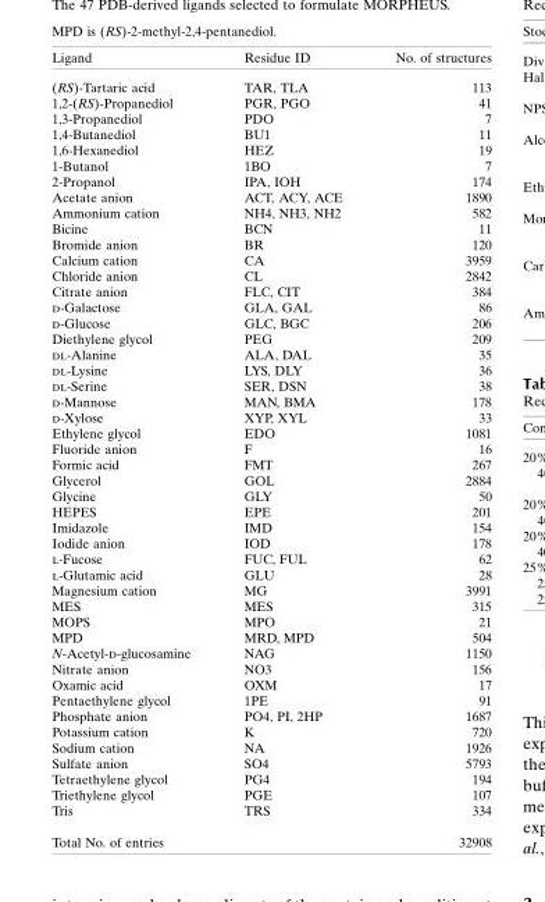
<table><thead><tr><td>Ligand</td><td>Residue ID</td><td>No. of structures</td></tr></thead><tbody><tr><td>(RS)-Tartaric acid</td><td>TAR, TLA</td><td>113</td></tr><tr><td>1,2-(RS)-Propanediol</td><td>PGR, PGO</td><td>41</td></tr><tr><td>1,3-Propanediol</td><td>PDO</td><td>7</td></tr><tr><td>1,4-Butanediol</td><td>BU1</td><td>11</td></tr><tr><td>1,6-Hexanediol</td><td>HEZ</td><td>19</td></tr><tr><td>1-Butanol</td><td>1BO</td><td>7</td></tr><tr><td>2-Propanol</td><td>IPA, IOH</td><td>174</td></tr><tr><td>Acetate anion</td><td>ACT, ACY, ACE</td><td>1890</td></tr><tr><td>Ammonium cation</td><td>NH4, NH3, NH2</td><td>582</td></tr><tr><td>Bicine</td><td>BCN</td><td>11</td></tr><tr><td>Bromide anion</td><td>BR</td><td>120</td></tr><tr><td>Calcium cation</td><td>CA</td><td>3959</td></tr><tr><td>Chloride anion</td><td>CL</td><td>2842</td></tr><tr><td>Citrate anion</td><td>FLC, CIT</td><td>384</td></tr><tr><td>d-Galactose</td><td>GLA, GAL</td><td>86</td></tr><tr><td>d-Glucose</td><td>GLC, BGC</td><td>206</td></tr><tr><td>Diethylene glycol</td><td>PEG</td><td>209</td></tr><tr><td>dl-Alanine</td><td>ALA, DAL</td><td>35</td></tr><tr><td>dl-Lysine</td><td>LYS, DLY</td><td>36</td></tr><tr><td>dl-Serine</td><td>SER, DSN</td><td>38</td></tr><tr><td>d-Mannose</td><td>MAN, BMA</td><td>178</td></tr><tr><td>d-Xylose</td><td>XYP, XYL</td><td>33</td></tr><tr><td>Ethylene glycol</td><td>EDO</td><td>1081</td></tr><tr><td>Fluoride anion</td><td>F</td><td>16</td></tr><tr><td>Formic acid</td><td>FMT</td><td>267</td></tr><tr><td>Glycerol</td><td>GOL</td><td>2884</td></tr><tr><td>Glycine</td><td>GLY</td><td>50</td></tr><tr><td>HEPES</td><td>EPE</td><td>201</td></tr><tr><td>Imidazole</td><td>IMD</td><td>154</td></tr><tr><td>Iodide anion</td><td>IOD</td><td>178</td></tr><tr><td>l-Fucose</td><td>FUC, FUL</td><td>62</td></tr><tr><td>l-Glutamic acid</td><td>GLU</td><td>28</td></tr><tr><td>Magnesium cation</td><td>MG</td><td>3991</td></tr><tr><td>MES</td><td>MES</td><td>315</td></tr><tr><td>MOPS</td><td>MPO</td><td>21</td></tr><tr><td>MPD</td><td>MRD, MPD</td><td>504</td></tr><tr><td>N-Acetyl-d-glucosamine</td><td>NAG</td><td>1150</td></tr><tr><td>Nitrate anion</td><td>NO3</td><td>156</td></tr><tr><td>Oxamic acid</td><td>OXM</td><td>17</td></tr><tr><td>Pentaethylene glycol</td><td>1PE</td><td>91</td></tr><tr><td>Phosphate anion</td><td>PO4, PI, 2HP</td><td>1687</td></tr><tr><td>Potassium cation</td><td>K</td><td>720</td></tr><tr><td>Sodium cation</td><td>NA</td><td>1926</td></tr><tr><td>Sulfate anion</td><td>SO4</td><td>5793</td></tr><tr><td>Tetraethylene glycol</td><td>PG4</td><td>194</td></tr><tr><td>Triethylene glycol</td><td>PGE</td><td>107</td></tr><tr><td>Tris</td><td>TRS</td><td>334</td></tr><tr><td>Total No. of entries</td><td></td><td>32908</td></tr></tbody></table>